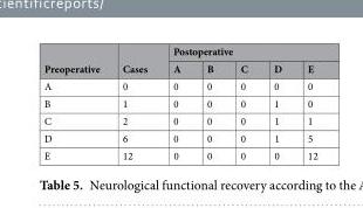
<table><thead><tr><td rowspan="2">Preoperative</td><td rowspan="2">Cases</td><td colspan="5">Postoperative</td></tr><tr><td>A</td><td>B</td><td>C</td><td>D</td><td>E</td></tr></thead><tbody><tr><td>A</td><td>0</td><td>0</td><td>0</td><td>0</td><td>0</td><td>0</td></tr><tr><td>B</td><td>1</td><td>0</td><td>0</td><td>0</td><td>1</td><td>0</td></tr><tr><td>C</td><td>2</td><td>0</td><td>0</td><td>0</td><td>1</td><td>1</td></tr><tr><td>D</td><td>6</td><td>0</td><td>0</td><td>0</td><td>1</td><td>5</td></tr><tr><td>E</td><td>12</td><td>0</td><td>0</td><td>0</td><td>0</td><td>12</td></tr></tbody></table>